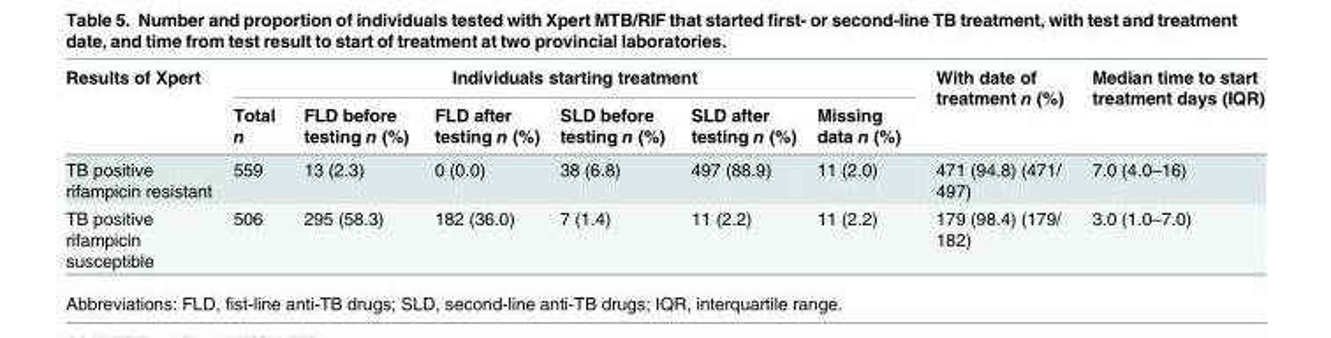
<table><thead><tr><td rowspan="2">Results of Xpert</td><td colspan="6">Individuals starting treatment</td><td rowspan="2">With date of treatment n (%)</td><td rowspan="2">Median time to start treatment days (IQR)</td></tr><tr><td>Total n</td><td>FLD before testing n (%)</td><td>FLD after testing n (%)</td><td>SLD before testing n (%)</td><td>SLD after testing n (%)</td><td>Missing data n (%)</td></tr></thead><tbody><tr><td>TB positive rifampicin resistant</td><td>559</td><td>13 (2.3)</td><td>0 (0.0)</td><td>38 (6.8)</td><td>497 (88.9)</td><td>11 (2.0)</td><td>471 (94.8) (471/ 497)</td><td>7.0 (4.0–16)</td></tr><tr><td>TB positive rifampicin susceptible</td><td>506</td><td>295 (58.3)</td><td>182 (36.0)</td><td>7 (1.4)</td><td>11 (2.2)</td><td>11 (2.2)</td><td>179 (98.4) (179/ 182)</td><td>3.0 (1.0–7.0)</td></tr></tbody></table>